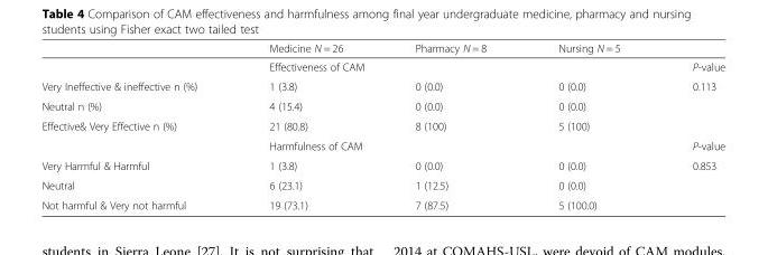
<table><thead><tr><td></td><td>Medicine N = 26</td><td>Pharmacy N = 8</td><td>Nursing N = 5</td><td></td></tr></thead><tbody><tr><td></td><td colspan="3">Effectiveness of CAM</td><td>P-value</td></tr><tr><td>Very Ineffective &amp; ineffective n (%)</td><td>1 (3.8)</td><td>0 (0.0)</td><td>0 (0.0)</td><td rowspan="3">0.113</td></tr><tr><td>Neutral n (%)</td><td>4 (15.4)</td><td>0 (0.0)</td><td>0 (0.0)</td></tr><tr><td rowspan="2">Effective&amp; Very Effective n (%)</td><td>21 (80.8)</td><td>8 (100)</td><td>5 (100)</td></tr><tr><td colspan="3">Harmfulness of CAM</td><td>P-value</td></tr><tr><td>Very Harmful &amp; Harmful</td><td>1 (3.8)</td><td>0 (0.0)</td><td>0 (0.0)</td><td rowspan="3">0.853</td></tr><tr><td>Neutral</td><td>6 (23.1)</td><td>1 (12.5)</td><td>0 (0.0)</td></tr><tr><td>Not harmful &amp; Very not harmful</td><td>19 (73.1)</td><td>7 (87.5)</td><td>5 (100.0)</td></tr></tbody></table>